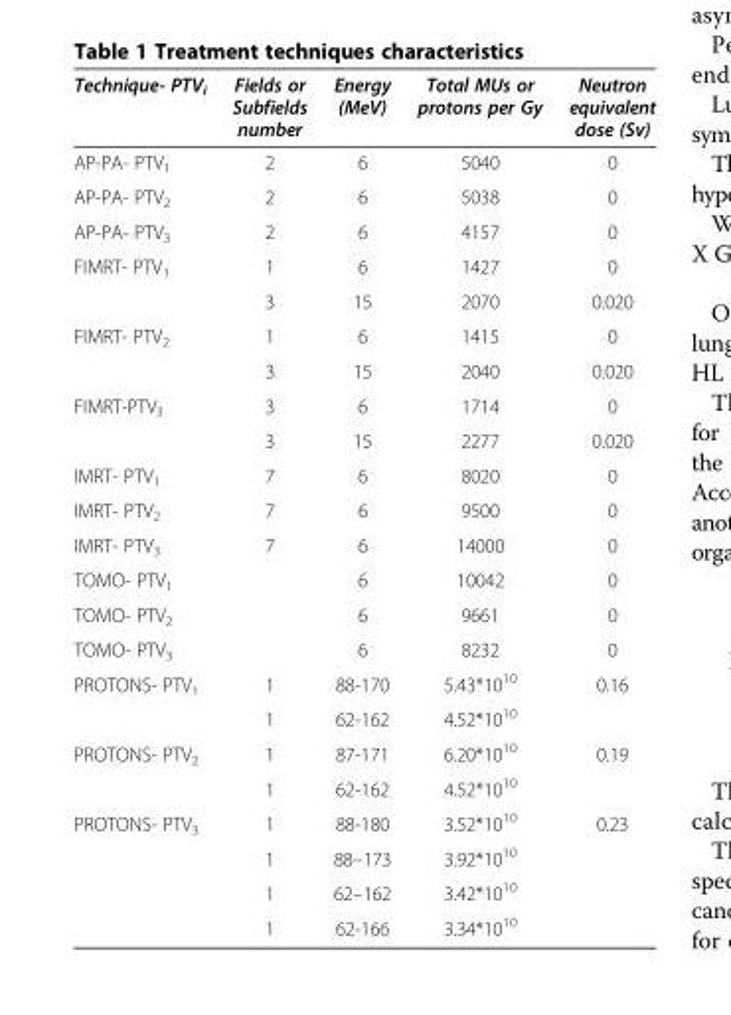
<table><thead><tr><td>Technique- PTV<sub>i</sub></td><td>Fields or Subfields number</td><td>Energy (MeV)</td><td>Total MUs or protons per Gy</td><td>Neutron equivalent dose (Sv)</td></tr></thead><tbody><tr><td>AP-PA- PTV<sub>1</sub></td><td>2</td><td>6</td><td>5040</td><td>0</td></tr><tr><td>AP-PA- PTV<sub>2</sub></td><td>2</td><td>6</td><td>5038</td><td>0</td></tr><tr><td>AP-PA- PTV<sub>3</sub></td><td>2</td><td>6</td><td>4157</td><td>0</td></tr><tr><td rowspan="2">FIMRT- PTV<sub>1</sub></td><td>1</td><td>6</td><td>1427</td><td>0</td></tr><tr><td>3</td><td>15</td><td>2070</td><td>0.020</td></tr><tr><td rowspan="2">FIMRT- PTV<sub>2</sub></td><td>1</td><td>6</td><td>1415</td><td>0</td></tr><tr><td>3</td><td>15</td><td>2040</td><td>0.020</td></tr><tr><td rowspan="2">FIMRT-PTV<sub>3</sub></td><td>3</td><td>6</td><td>1714</td><td>0</td></tr><tr><td>3</td><td>15</td><td>2277</td><td>0.020</td></tr><tr><td>IMRT- PTV<sub>1</sub></td><td>7</td><td>6</td><td>8020</td><td>0</td></tr><tr><td>IMRT- PTV<sub>2</sub></td><td>7</td><td>6</td><td>9500</td><td>0</td></tr><tr><td>IMRT- PTV<sub>3</sub></td><td>7</td><td>6</td><td>14000</td><td>0</td></tr><tr><td>TOMO- PTV<sub>1</sub></td><td></td><td>6</td><td>10042</td><td>0</td></tr><tr><td>TOMO- PTV<sub>2</sub></td><td></td><td>6</td><td>9661</td><td>0</td></tr><tr><td>TOMO- PTV<sub>3</sub></td><td></td><td>6</td><td>8232</td><td>0</td></tr><tr><td rowspan="2">PROTONS- PTV<sub>1</sub></td><td>1</td><td>88-170</td><td>5.43*10<sup>10</sup></td><td rowspan="2">0.16</td></tr><tr><td>1</td><td>62-162</td><td>4.52*10<sup>10</sup></td></tr><tr><td rowspan="2">PROTONS- PTV<sub>2</sub></td><td>1</td><td>87-171</td><td>6.20*10<sup>10</sup></td><td rowspan="2">0.19</td></tr><tr><td>1</td><td>62-162</td><td>4.52*10<sup>10</sup></td></tr><tr><td rowspan="4">PROTONS- PTV<sub>3</sub></td><td>1</td><td>88-180</td><td>3.52*10<sup>10</sup></td><td rowspan="3">0.23</td></tr><tr><td>1</td><td>88–173</td><td>3.92*10<sup>10</sup></td></tr><tr><td>1</td><td>62–162</td><td>3.42*10<sup>10</sup></td></tr><tr><td>1</td><td>62-166</td><td>3.34*10<sup>10</sup></td><td></td></tr></tbody></table>